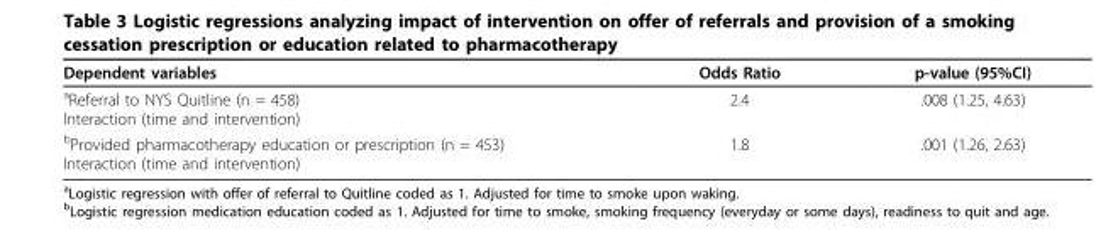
<table><thead><tr><td>Dependent variables</td><td>Odds Ratio</td><td>p-value (95%CI)</td></tr></thead><tbody><tr><td><sup>a</sup>Referral to NYS Quitline (n = 458) Interaction (time and intervention)</td><td>2.4</td><td>.008 (1.25, 4.63)</td></tr><tr><td><sup>b</sup>Provided pharmacotherapy education or prescription (n = 453) Interaction (time and intervention)</td><td>1.8</td><td>.001 (1.26, 2.63)</td></tr></tbody></table>